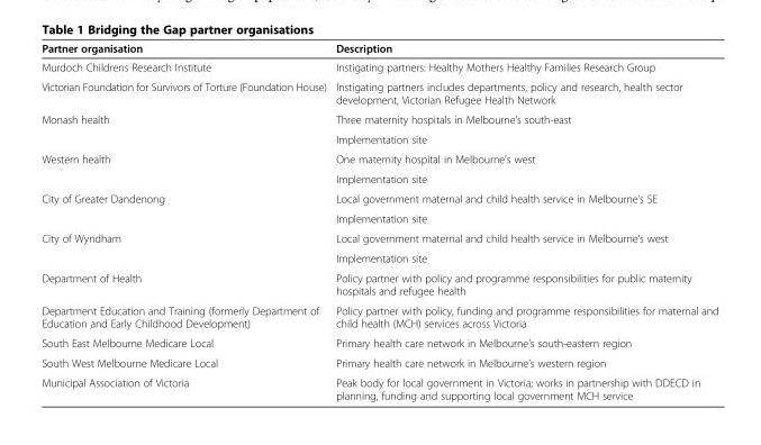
<table><thead><tr><td>Partner organisation</td><td>Description</td></tr></thead><tbody><tr><td>Murdoch Childrens Research Institute</td><td>Instigating partners: Healthy Mothers Healthy Families Research Group</td></tr><tr><td>Victorian Foundation for Survivors of Torture (Foundation House)</td><td>Instigating partners includes departments, policy and research, health sector development, Victorian Refugee Health Network</td></tr><tr><td rowspan="2">Monash health</td><td>Three maternity hospitals in Melbourne’s south-east</td></tr><tr><td>Implementation site</td></tr><tr><td rowspan="2">Western health</td><td>One maternity hospital in Melbourne’s west</td></tr><tr><td>Implementation site</td></tr><tr><td rowspan="2">City of Greater Dandenong</td><td>Local government maternal and child health service in Melbourne’s SE</td></tr><tr><td>Implementation site</td></tr><tr><td rowspan="2">City of Wyndham</td><td>Local government maternal and child health service in Melbourne’s west</td></tr><tr><td>Implementation site</td></tr><tr><td>Department of Health</td><td>Policy partner with policy and programme responsibilities for public maternity hospitals and refugee health</td></tr><tr><td>Department Education and Training (formerly Department of Education and Early Childhood Development)</td><td>Policy partner with policy, funding and programme responsibilities for maternal and child health (MCH) services across Victoria</td></tr><tr><td>South East Melbourne Medicare Local</td><td>Primary health care network in Melbourne’s south-eastern region</td></tr><tr><td>South West Melbourne Medicare Local</td><td>Primary health care network in Melbourne’s western region</td></tr><tr><td>Municipal Association of Victoria</td><td>Peak body for local government in Victoria; works in partnership with DDECD in planning, funding and supporting local government MCH service</td></tr></tbody></table>